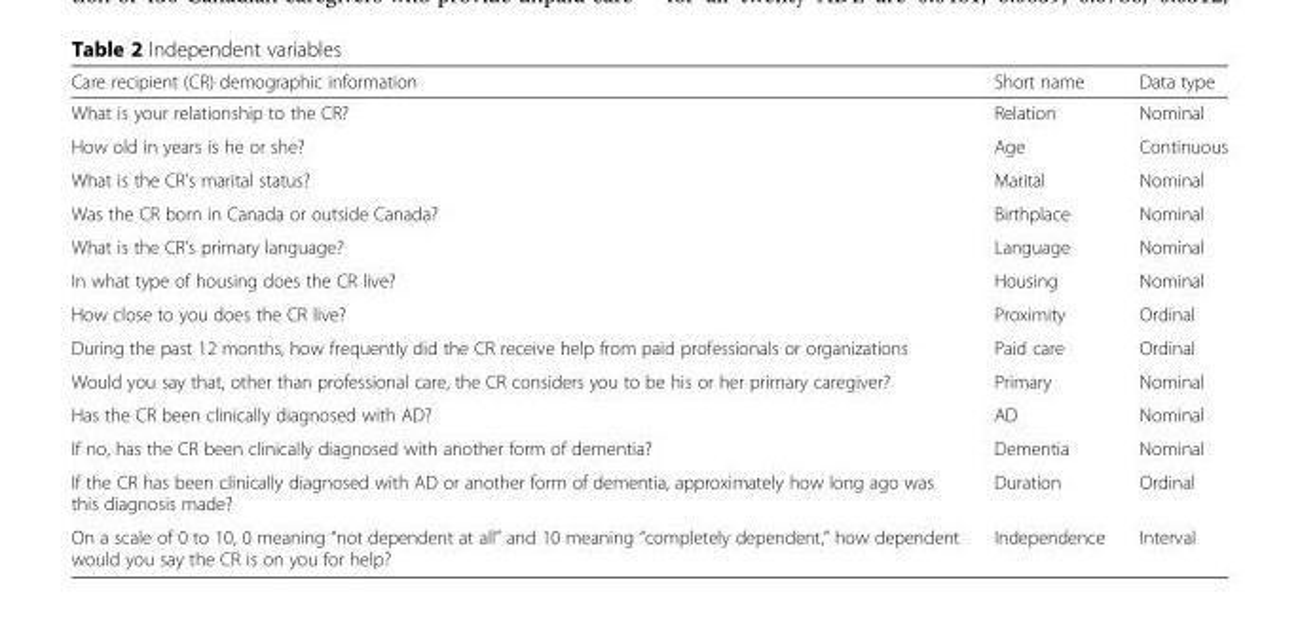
<table><thead><tr><td>Care recipient (CR) demographic information</td><td>Short name</td><td>Data type</td></tr></thead><tbody><tr><td>What is your relationship to the CR?</td><td>Relation</td><td>Nominal</td></tr><tr><td>How old in years is he or she?</td><td>Age</td><td>Continuous</td></tr><tr><td>What is the CR’s marital status?</td><td>Marital</td><td>Nominal</td></tr><tr><td>Was the CR born in Canada or outside Canada?</td><td>Birthplace</td><td>Nominal</td></tr><tr><td>What is the CR’s primary language?</td><td>Language</td><td>Nominal</td></tr><tr><td>In what type of housing does the CR live?</td><td>Housing</td><td>Nominal</td></tr><tr><td>How close to you does the CR live?</td><td>Proximity</td><td>Ordinal</td></tr><tr><td>During the past 12 months, how frequently did the CR receive help from paid professionals or organizations</td><td>Paid care</td><td>Ordinal</td></tr><tr><td>Would you say that, other than professional care, the CR considers you to be his or her primary caregiver?</td><td>Primary</td><td>Nominal</td></tr><tr><td>Has the CR been clinically diagnosed with AD?</td><td>AD</td><td>Nominal</td></tr><tr><td>If no, has the CR been clinically diagnosed with another form of dementia?</td><td>Dementia</td><td>Nominal</td></tr><tr><td>If the CR has been clinically diagnosed with AD or another form of dementia, approximately how long ago was this diagnosis made?</td><td>Duration</td><td>Ordinal</td></tr><tr><td>On a scale of 0 to 10, 0 meaning “not dependent at all” and 10 meaning “completely dependent,” how dependent would you say the CR is on you for help?</td><td>Independence</td><td>Interval</td></tr></tbody></table>